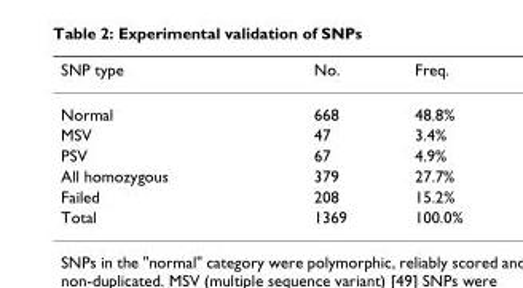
<table><thead><tr><td>SNP type</td><td>No.</td><td>Freq.</td></tr></thead><tbody><tr><td>Normal</td><td>668</td><td>48.8%</td></tr><tr><td>MSV</td><td>47</td><td>3.4%</td></tr><tr><td>PSV</td><td>67</td><td>4.9%</td></tr><tr><td>All homozygous</td><td>379</td><td>27.7%</td></tr><tr><td>Failed</td><td>208</td><td>15.2%</td></tr><tr><td>Total</td><td>1369</td><td>100.0%</td></tr></tbody></table>